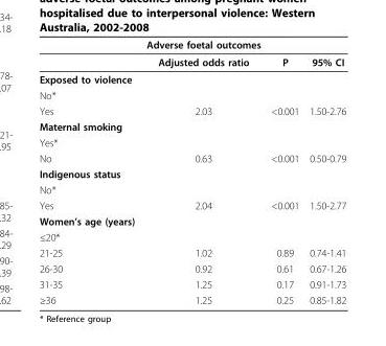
<table><thead><tr><td></td><td>Adverse foetal outcomes</td><td></td><td></td></tr></thead><tbody><tr><td></td><td>Adjusted odds ratio</td><td>P</td><td>95% CI</td></tr><tr><td colspan="4">Exposed to violence</td></tr><tr><td colspan="4">No*</td></tr><tr><td>Yes</td><td>2.03</td><td>&lt;0.001</td><td>1.50-2.76</td></tr><tr><td colspan="4">Maternal smoking</td></tr><tr><td colspan="4">Yes*</td></tr><tr><td>No</td><td>0.63</td><td>&lt;0.001</td><td>0.50-0.79</td></tr><tr><td colspan="4">Indigenous status</td></tr><tr><td colspan="4">No*</td></tr><tr><td>Yes</td><td>2.04</td><td>&lt;0.001</td><td>1.50-2.77</td></tr><tr><td colspan="4">Women’s age (years)</td></tr><tr><td colspan="4">≤20*</td></tr><tr><td>21-25</td><td>1.02</td><td>0.89</td><td>0.74-1.41</td></tr><tr><td>26-30</td><td>0.92</td><td>0.61</td><td>0.67-1.26</td></tr><tr><td>31-35</td><td>1.25</td><td>0.17</td><td>0.91-1.73</td></tr><tr><td>≥36</td><td>1.25</td><td>0.25</td><td>0.85-1.82</td></tr></tbody></table>